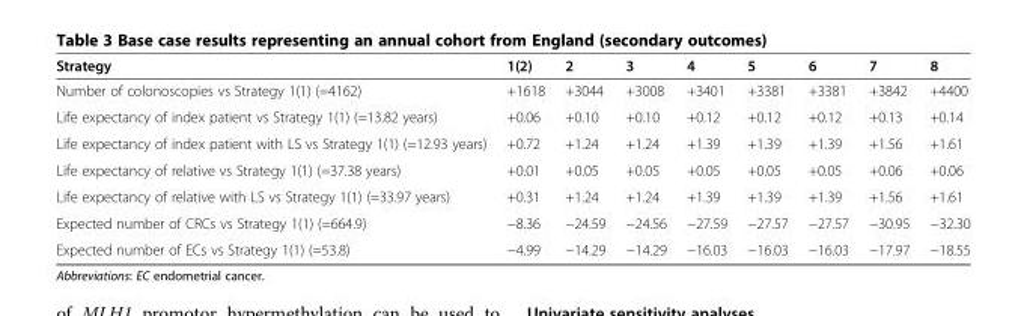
<table><thead><tr><td>Strategy</td><td>1(2)</td><td>2</td><td>3</td><td>4</td><td>5</td><td>6</td><td>7</td><td>8</td></tr></thead><tbody><tr><td>Number of colonoscopies vs Strategy 1(1) (=4162)</td><td>+1618</td><td>+3044</td><td>+3008</td><td>+3401</td><td>+3381</td><td>+3381</td><td>+3842</td><td>+4400</td></tr><tr><td>Life expectancy of index patient vs Strategy 1(1) (=13.82 years)</td><td>+0.06</td><td>+0.10</td><td>+0.10</td><td>+0.12</td><td>+0.12</td><td>+0.12</td><td>+0.13</td><td>+0.14</td></tr><tr><td>Life expectancy of index patient with LS vs Strategy 1(1) (=12.93 years)</td><td>+0.72</td><td>+1.24</td><td>+1.24</td><td>+1.39</td><td>+1.39</td><td>+1.39</td><td>+1.56</td><td>+1.61</td></tr><tr><td>Life expectancy of relative vs Strategy 1(1) (=37.38 years)</td><td>+0.01</td><td>+0.05</td><td>+0.05</td><td>+0.05</td><td>+0.05</td><td>+0.05</td><td>+0.06</td><td>+0.06</td></tr><tr><td>Life expectancy of relative with LS vs Strategy 1(1) (=33.97 years)</td><td>+0.31</td><td>+1.24</td><td>+1.24</td><td>+1.39</td><td>+1.39</td><td>+1.39</td><td>+1.56</td><td>+1.61</td></tr><tr><td>Expected number of CRCs vs Strategy 1(1) (=664.9)</td><td>−8.36</td><td>−24.59</td><td>−24.56</td><td>−27.59</td><td>−27.57</td><td>−27.57</td><td>−30.95</td><td>−32.30</td></tr><tr><td>Expected number of ECs vs Strategy 1(1) (=53.8)</td><td>−4.99</td><td>−14.29</td><td>−14.29</td><td>−16.03</td><td>−16.03</td><td>−16.03</td><td>−17.97</td><td>−18.55</td></tr></tbody></table>